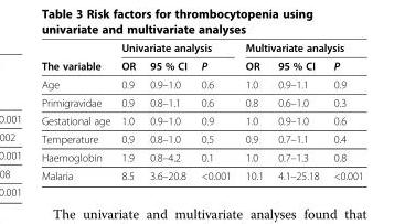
<table><thead><tr><td rowspan="2">The variable</td><td colspan="3">Univariate analysis</td><td colspan="3">Multivariate analysis</td></tr><tr><td>OR</td><td>95 % CI</td><td>P</td><td>OR</td><td>95 % CI</td><td>P</td></tr></thead><tbody><tr><td>Age</td><td>0.9</td><td>0.9–1.0</td><td>0.6</td><td>1.0</td><td>0.9–1.1</td><td>0.9</td></tr><tr><td>Primigravidae</td><td>0.9</td><td>0.8–1.1</td><td>0.6</td><td>0.8</td><td>0.6–1.0</td><td>0.3</td></tr><tr><td>Gestational age</td><td>1.0</td><td>0.9–1.0</td><td>0.9</td><td>1.0</td><td>0.9–1.0</td><td>0.6</td></tr><tr><td>Temperature</td><td>0.9</td><td>0.8–1.0</td><td>0.5</td><td>0.9</td><td>0.7–1.1</td><td>0.4</td></tr><tr><td>Haemoglobin</td><td>1.9</td><td>0.8–4.2</td><td>0.1</td><td>1.0</td><td>0.7–1.3</td><td>0.8</td></tr><tr><td>Malaria</td><td>8.5</td><td>3.6–20.8</td><td>&lt;0.001</td><td>10.1</td><td>4.1–25.18</td><td>&lt;0.001</td></tr></tbody></table>